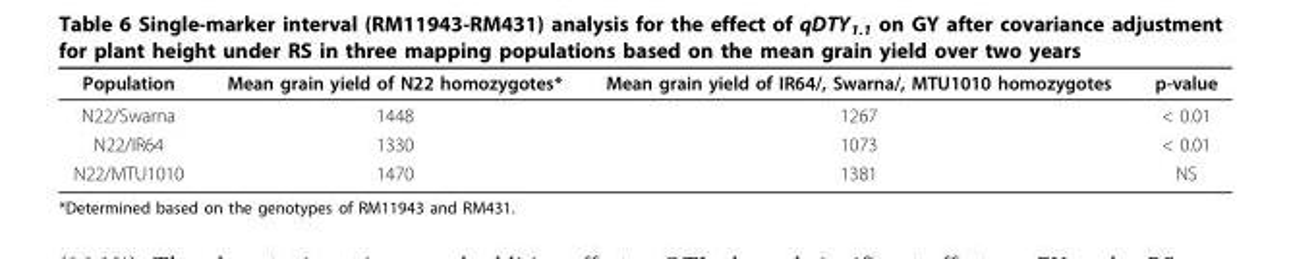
<table><thead><tr><td>Population</td><td>Mean grain yield of N22 homozygotes*</td><td>Mean grain yield of IR64/, Swarna/, MTU1010 homozygotes</td><td>p-value</td></tr></thead><tbody><tr><td>N22/Swarna</td><td>1448</td><td>1267</td><td>&lt; 0.01</td></tr><tr><td>N22/IR64</td><td>1330</td><td>1073</td><td>&lt; 0.01</td></tr><tr><td>N22/MTU1010</td><td>1470</td><td>1381</td><td>NS</td></tr></tbody></table>